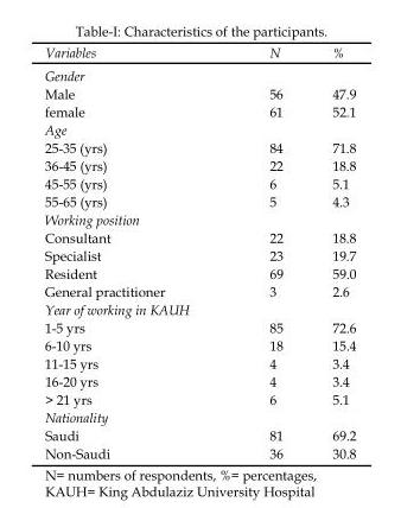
<table><thead><tr><td>Variables</td><td>N</td><td>%</td></tr></thead><tbody><tr><td colspan="3">Gender</td></tr><tr><td>Male</td><td>56</td><td>47.9</td></tr><tr><td>female</td><td>61</td><td>52.1</td></tr><tr><td colspan="3">Age</td></tr><tr><td>25-35 (yrs)</td><td>84</td><td>71.8</td></tr><tr><td>36-45 (yrs)</td><td>22</td><td>18.8</td></tr><tr><td>45-55 (yrs)</td><td>6</td><td>5.1</td></tr><tr><td>55-65 (yrs)</td><td>5</td><td>4.3</td></tr><tr><td colspan="3">Working position</td></tr><tr><td>Consultant</td><td>22</td><td>18.8</td></tr><tr><td>Specialist</td><td>23</td><td>19.7</td></tr><tr><td>Resident</td><td>69</td><td>59.0</td></tr><tr><td>General practitioner</td><td>3</td><td>2.6</td></tr><tr><td colspan="3">Year of working in KAUH</td></tr><tr><td>1-5 yrs</td><td>85</td><td>72.6</td></tr><tr><td>6-10 yrs</td><td>18</td><td>15.4</td></tr><tr><td>11-15 yrs</td><td>4</td><td>3.4</td></tr><tr><td>16-20 yrs</td><td>4</td><td>3.4</td></tr><tr><td>&gt; 21 yrs</td><td>6</td><td>5.1</td></tr><tr><td colspan="3">Nationality</td></tr><tr><td>Saudi</td><td>81</td><td>69.2</td></tr><tr><td>Non-Saudi</td><td>36</td><td>30.8</td></tr></tbody></table>